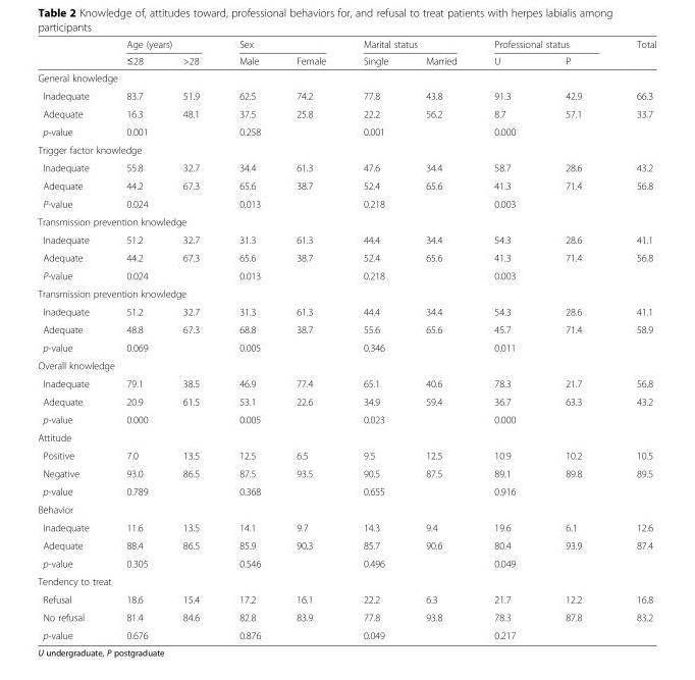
<table><thead><tr><td rowspan="2"></td><td colspan="2">Age (years)</td><td colspan="2">Sex</td><td colspan="2">Marital status</td><td colspan="2">Professional status</td><td rowspan="2">Total</td></tr><tr><td>≤28</td><td>&gt;28</td><td>Male</td><td>Female</td><td>Single</td><td>Married</td><td>U</td><td>P</td></tr></thead><tbody><tr><td colspan="10">General knowledge</td></tr><tr><td>Inadequate</td><td>83.7</td><td>51.9</td><td>62.5</td><td>74.2</td><td>77.8</td><td>43.8</td><td>91.3</td><td>42.9</td><td>66.3</td></tr><tr><td>Adequate</td><td>16.3</td><td>48.1</td><td>37.5</td><td>25.8</td><td>22.2</td><td>56.2</td><td>8.7</td><td>57.1</td><td>33.7</td></tr><tr><td>p-value</td><td colspan="2">0.001</td><td colspan="2">0.258</td><td colspan="2">0.001</td><td colspan="3">0.000</td></tr><tr><td colspan="10">Trigger factor knowledge</td></tr><tr><td>Inadequate</td><td>55.8</td><td>32.7</td><td>34.4</td><td>61.3</td><td>47.6</td><td>34.4</td><td>58.7</td><td>28.6</td><td>43.2</td></tr><tr><td>Adequate</td><td>44.2</td><td>67.3</td><td>65.6</td><td>38.7</td><td>52.4</td><td>65.6</td><td>41.3</td><td>71.4</td><td>56.8</td></tr><tr><td>P-value</td><td colspan="2">0.024</td><td colspan="2">0.013</td><td colspan="2">0.218</td><td colspan="3">0.003</td></tr><tr><td colspan="10">Transmission prevention knowledge</td></tr><tr><td>Inadequate</td><td>51.2</td><td>32.7</td><td>31.3</td><td>61.3</td><td>44.4</td><td>34.4</td><td>54.3</td><td>28.6</td><td>41.1</td></tr><tr><td>Adequate</td><td>44.2</td><td>67.3</td><td>65.6</td><td>38.7</td><td>52.4</td><td>65.6</td><td>41.3</td><td>71.4</td><td>56.8</td></tr><tr><td>P-value</td><td colspan="2">0.024</td><td colspan="2">0.013</td><td colspan="2">0.218</td><td colspan="3">0.003</td></tr><tr><td colspan="10">Transmission prevention knowledge</td></tr><tr><td>Inadequate</td><td>51.2</td><td>32.7</td><td>31.3</td><td>61.3</td><td>44.4</td><td>34.4</td><td>54.3</td><td>28.6</td><td>41.1</td></tr><tr><td>Adequate</td><td>48.8</td><td>67.3</td><td>68.8</td><td>38.7</td><td>55.6</td><td>65.6</td><td>45.7</td><td>71.4</td><td>58.9</td></tr><tr><td>p-value</td><td colspan="2">0.069</td><td colspan="2">0.005</td><td colspan="2">0.346</td><td colspan="3">0.011</td></tr><tr><td colspan="10">Overall knowledge</td></tr><tr><td>Inadequate</td><td>79.1</td><td>38.5</td><td>46.9</td><td>77.4</td><td>65.1</td><td>40.6</td><td>78.3</td><td>21.7</td><td>56.8</td></tr><tr><td>Adequate</td><td>20.9</td><td>61.5</td><td>53.1</td><td>22.6</td><td>34.9</td><td>59.4</td><td>36.7</td><td>63.3</td><td>43.2</td></tr><tr><td>p-value</td><td colspan="2">0.000</td><td colspan="2">0.005</td><td colspan="2">0.023</td><td colspan="3">0.000</td></tr><tr><td colspan="10">Attitude</td></tr><tr><td>Positive</td><td>7.0</td><td>13.5</td><td>12.5</td><td>6.5</td><td>9.5</td><td>12.5</td><td>10.9</td><td>10.2</td><td>10.5</td></tr><tr><td>Negative</td><td>93.0</td><td>86.5</td><td>87.5</td><td>93.5</td><td>90.5</td><td>87.5</td><td>89.1</td><td>89.8</td><td>89.5</td></tr><tr><td>p-value</td><td colspan="2">0.789</td><td colspan="2">0.368</td><td colspan="2">0.655</td><td colspan="3">0.916</td></tr><tr><td colspan="10">Behavior</td></tr><tr><td>Inadequate</td><td>11.6</td><td>13.5</td><td>14.1</td><td>9.7</td><td>14.3</td><td>9.4</td><td>19.6</td><td>6.1</td><td>12.6</td></tr><tr><td>Adequate</td><td>88.4</td><td>86.5</td><td>85.9</td><td>90.3</td><td>85.7</td><td>90.6</td><td>80.4</td><td>93.9</td><td>87.4</td></tr><tr><td>p-value</td><td colspan="2">0.305</td><td colspan="2">0.546</td><td colspan="2">0.496</td><td colspan="3">0.049</td></tr><tr><td colspan="10">Tendency to treat</td></tr><tr><td>Refusal</td><td>18.6</td><td>15.4</td><td>17.2</td><td>16.1</td><td>22.2</td><td>6.3</td><td>21.7</td><td>12.2</td><td>16.8</td></tr><tr><td>No refusal</td><td>81.4</td><td>84.6</td><td>82.8</td><td>83.9</td><td>77.8</td><td>93.8</td><td>78.3</td><td>87.8</td><td>83.2</td></tr><tr><td>p-value</td><td colspan="2">0.676</td><td colspan="2">0.876</td><td colspan="2">0.049</td><td colspan="3">0.217</td></tr></tbody></table>